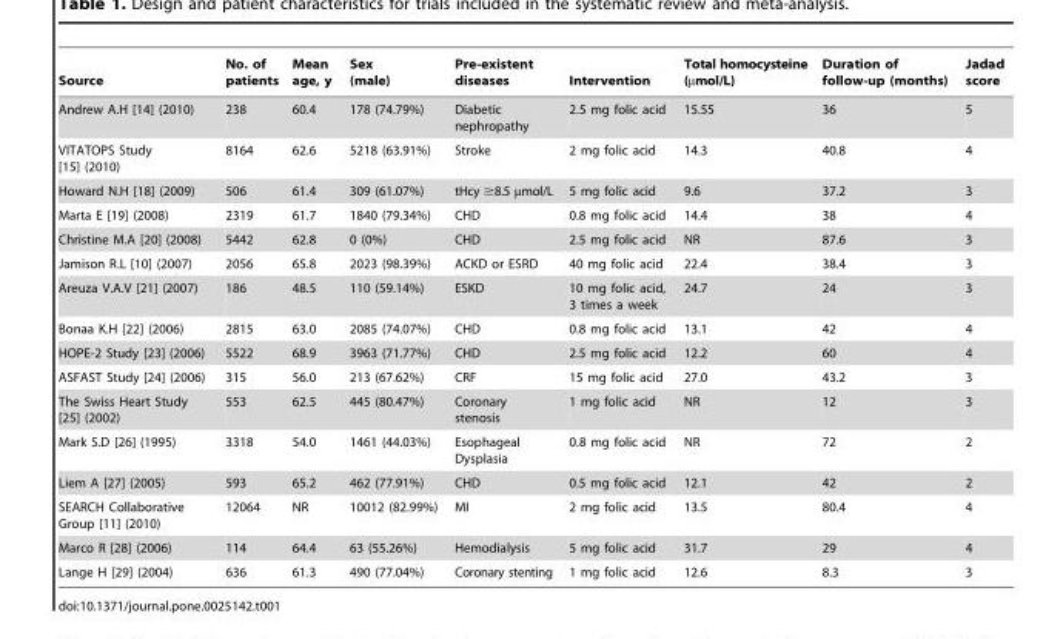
<table><thead><tr><td>Source</td><td>No. of patients</td><td>Mean age, y</td><td>Sex (male)</td><td>Pre-existent diseases</td><td>Intervention</td><td>Total homocysteine (µmol/L)</td><td>Duration of follow-up (months)</td><td>Jadad score</td></tr></thead><tbody><tr><td>Andrew A.H [14] (2010)</td><td>238</td><td>60.4</td><td>178 (74.79%)</td><td>Diabetic nephropathy</td><td>2.5 mg folic acid</td><td>15.55</td><td>36</td><td>5</td></tr><tr><td>VITATOPS Study [15] (2010)</td><td>8164</td><td>62.6</td><td>5218 (63.91%)</td><td>Stroke</td><td>2 mg folic acid</td><td>14.3</td><td>40.8</td><td>4</td></tr><tr><td>Howard N.H [18] (2009)</td><td>506</td><td>61.4</td><td>309 (61.07%)</td><td>tHcy ≥8.5 µmol/L</td><td>5 mg folic acid</td><td>9.6</td><td>37.2</td><td>3</td></tr><tr><td>Marta E [19] (2008)</td><td>2319</td><td>61.7</td><td>1840 (79.34%)</td><td>CHD</td><td>0.8 mg folic acid</td><td>14.4</td><td>38</td><td>4</td></tr><tr><td>Christine M.A [20] (2008)</td><td>5442</td><td>62.8</td><td>0 (0%)</td><td>CHD</td><td>2.5 mg folic acid</td><td>NR</td><td>87.6</td><td>3</td></tr><tr><td>Jamison R.L [10] (2007)</td><td>2056</td><td>65.8</td><td>2023 (98.39%)</td><td>ACKD or ESRD</td><td>40 mg folic acid</td><td>22.4</td><td>38.4</td><td>3</td></tr><tr><td>Areuza V.A.V [21] (2007)</td><td>186</td><td>48.5</td><td>110 (59.14%)</td><td>ESKD</td><td>10 mg folic acid, 3 times a week</td><td>24.7</td><td>24</td><td>3</td></tr><tr><td>Bonaa K.H [22] (2006)</td><td>2815</td><td>63.0</td><td>2085 (74.07%)</td><td>CHD</td><td>0.8 mg folic acid</td><td>13.1</td><td>42</td><td>4</td></tr><tr><td>HOPE-2 Study [23] (2006)</td><td>5522</td><td>68.9</td><td>3963 (71.77%)</td><td>CHD</td><td>2.5 mg folic acid</td><td>12.2</td><td>60</td><td>4</td></tr><tr><td>ASFAST Study [24] (2006)</td><td>315</td><td>56.0</td><td>213 (67.62%)</td><td>CRF</td><td>15 mg folic acid</td><td>27.0</td><td>43.2</td><td>3</td></tr><tr><td>The Swiss Heart Study [25] (2002)</td><td>553</td><td>62.5</td><td>445 (80.47%)</td><td>Coronary stenosis</td><td>1 mg folic acid</td><td>NR</td><td>12</td><td>3</td></tr><tr><td>Mark S.D [26] (1995)</td><td>3318</td><td>54.0</td><td>1461 (44.03%)</td><td>Esophageal Dysplasia</td><td>0.8 mg folic acid</td><td>NR</td><td>72</td><td>2</td></tr><tr><td>Liem A [27] (2005)</td><td>593</td><td>65.2</td><td>462 (77.91%)</td><td>CHD</td><td>0.5 mg folic acid</td><td>12.1</td><td>42</td><td>2</td></tr><tr><td>SEARCH Collaborative Group [11] (2010)</td><td>12064</td><td>NR</td><td>10012 (82.99%)</td><td>MI</td><td>2 mg folic acid</td><td>13.5</td><td>80.4</td><td>4</td></tr><tr><td>Marco R [28] (2006)</td><td>114</td><td>64.4</td><td>63 (55.26%)</td><td>Hemodialysis</td><td>5 mg folic acid</td><td>31.7</td><td>29</td><td>4</td></tr><tr><td>Lange H [29] (2004)</td><td>636</td><td>61.3</td><td>490 (77.04%)</td><td>Coronary stenting</td><td>1 mg folic acid</td><td>12.6</td><td>8.3</td><td>3</td></tr></tbody></table>